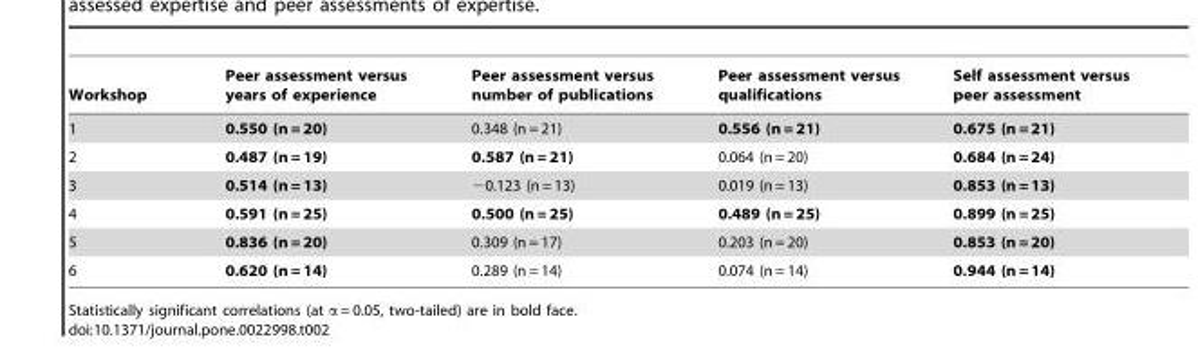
<table><thead><tr><td>Workshop</td><td>Peer assessment versus years of experience</td><td>Peer assessment versus number of publications</td><td>Peer assessment versus qualifications</td><td>Self assessment versus peer assessment</td></tr></thead><tbody><tr><td>1</td><td>0.550 (n = 20)</td><td>0.348 (n = 21)</td><td>0.556 (n = 21)</td><td>0.675 (n = 21)</td></tr><tr><td>2</td><td>0.487 (n = 19)</td><td>0.587 (n = 21)</td><td>0.064 (n = 20)</td><td>0.684 (n = 24)</td></tr><tr><td>3</td><td>0.514 (n = 13)</td><td>−0.123 (n = 13)</td><td>0.019 (n = 13)</td><td>0.853 (n = 13)</td></tr><tr><td>4</td><td>0.591 (n = 25)</td><td>0.500 (n = 25)</td><td>0.489 (n = 25)</td><td>0.899 (n = 25)</td></tr><tr><td>5</td><td>0.836 (n = 20)</td><td>0.309 (n = 17)</td><td>0.203 (n = 20)</td><td>0.853 (n = 20)</td></tr><tr><td>6</td><td>0.620 (n = 14)</td><td>0.289 (n = 14)</td><td>0.074 (n = 14)</td><td>0.944 (n = 14)</td></tr></tbody></table>